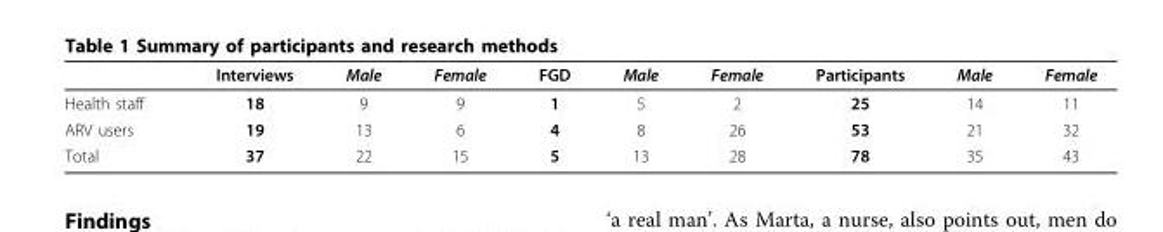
<table><thead><tr><td></td><td>Interviews</td><td>Male</td><td>Female</td><td>FGD</td><td>Male</td><td>Female</td><td>Participants</td><td>Male</td><td>Female</td></tr></thead><tbody><tr><td>Health staff</td><td>18</td><td>9</td><td>9</td><td>1</td><td>5</td><td>2</td><td>25</td><td>14</td><td>11</td></tr><tr><td>ARV users</td><td>19</td><td>13</td><td>6</td><td>4</td><td>8</td><td>26</td><td>53</td><td>21</td><td>32</td></tr><tr><td>Total</td><td>37</td><td>22</td><td>15</td><td>5</td><td>13</td><td>28</td><td>78</td><td>35</td><td>43</td></tr></tbody></table>